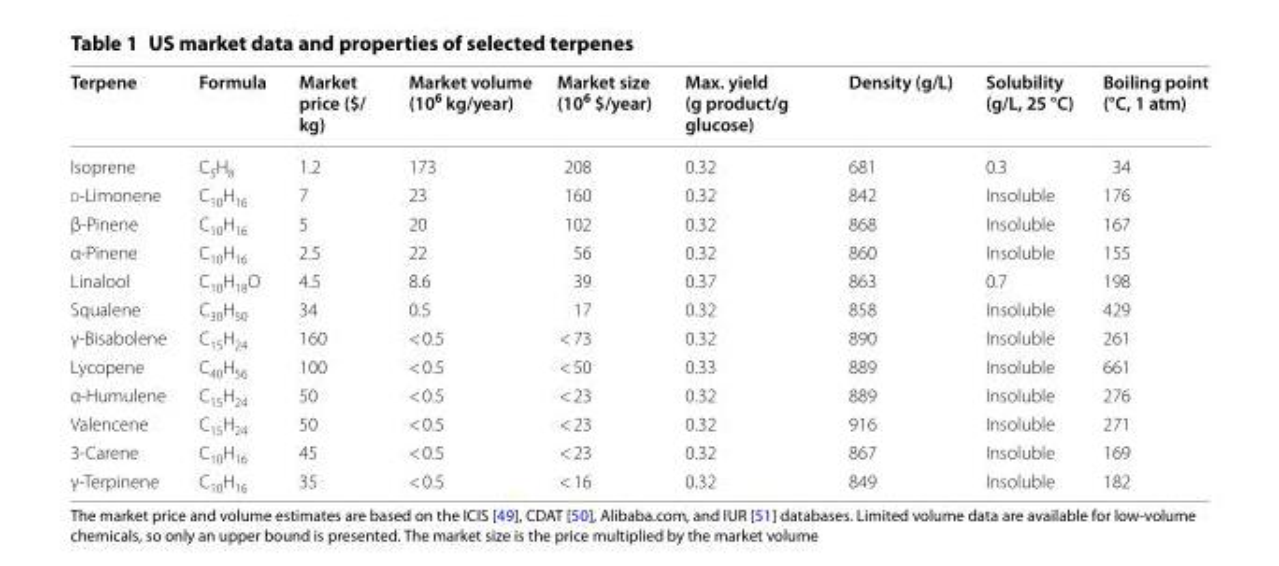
<table><thead><tr><td>Terpene</td><td>Formula</td><td>Market price ($/ kg)</td><td>Market volume (10<sup>6</sup> kg/year)</td><td>Market size (10<sup>6</sup> $/year)</td><td>Max. yield (g product/g glucose)</td><td>Density (g/L)</td><td>Solubility (g/L, 25 °C)</td><td>Boiling point (°C, 1 atm)</td></tr></thead><tbody><tr><td>Isoprene</td><td>C<sub>5</sub>H<sub>8</sub></td><td>1.2</td><td>173</td><td>208</td><td>0.32</td><td>681</td><td>0.3</td><td>34</td></tr><tr><td>d-Limonene</td><td>C<sub>10</sub>H<sub>16</sub></td><td>7</td><td>23</td><td>160</td><td>0.32</td><td>842</td><td>Insoluble</td><td>176</td></tr><tr><td>β-Pinene</td><td>C<sub>10</sub>H<sub>16</sub></td><td>5</td><td>20</td><td>102</td><td>0.32</td><td>868</td><td>Insoluble</td><td>167</td></tr><tr><td>α-Pinene</td><td>C<sub>10</sub>H<sub>16</sub></td><td>2.5</td><td>22</td><td>56</td><td>0.32</td><td>860</td><td>Insoluble</td><td>155</td></tr><tr><td>Linalool</td><td>C<sub>10</sub>H<sub>18</sub>O</td><td>4.5</td><td>8.6</td><td>39</td><td>0.37</td><td>863</td><td>0.7</td><td>198</td></tr><tr><td>Squalene</td><td>C<sub>30</sub>H<sub>50</sub></td><td>34</td><td>0.5</td><td>17</td><td>0.32</td><td>858</td><td>Insoluble</td><td>429</td></tr><tr><td>γ-Bisabolene</td><td>C<sub>15</sub>H<sub>24</sub></td><td>160</td><td>&lt; 0.5</td><td>&lt; 73</td><td>0.32</td><td>890</td><td>Insoluble</td><td>261</td></tr><tr><td>Lycopene</td><td>C<sub>40</sub>H<sub>56</sub></td><td>100</td><td>&lt; 0.5</td><td>&lt; 50</td><td>0.33</td><td>889</td><td>Insoluble</td><td>661</td></tr><tr><td>α-Humulene</td><td>C<sub>15</sub>H<sub>24</sub></td><td>50</td><td>&lt; 0.5</td><td>&lt; 23</td><td>0.32</td><td>889</td><td>Insoluble</td><td>276</td></tr><tr><td>Valencene</td><td>C<sub>15</sub>H<sub>24</sub></td><td>50</td><td>&lt; 0.5</td><td>&lt; 23</td><td>0.32</td><td>916</td><td>Insoluble</td><td>271</td></tr><tr><td>3-Carene</td><td>C<sub>10</sub>H<sub>16</sub></td><td>45</td><td>&lt; 0.5</td><td>&lt; 23</td><td>0.32</td><td>867</td><td>Insoluble</td><td>169</td></tr><tr><td>γ-Terpinene</td><td>C<sub>10</sub>H<sub>16</sub></td><td>35</td><td>&lt; 0.5</td><td>&lt; 16</td><td>0.32</td><td>849</td><td>Insoluble</td><td>182</td></tr></tbody></table>